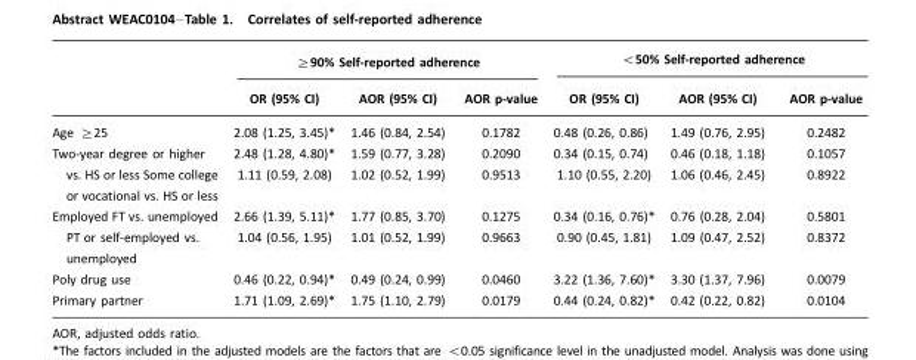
<table><thead><tr><td rowspan="2"></td><td colspan="3">≥90% Self-reported adherence</td><td colspan="3">&lt;50% Self-reported adherence</td></tr><tr><td>OR (95% CI)</td><td>AOR (95% CI)</td><td>AOR p-value</td><td>OR (95% CI)</td><td>AOR (95% CI)</td><td>AOR p-value</td></tr></thead><tbody><tr><td>Age ≥25</td><td>2.08 (1.25, 3.45)*</td><td>1.46 (0.84, 2.54)</td><td>0.1782</td><td>0.48 (0.26, 0.86)</td><td>1.49 (0.76, 2.95)</td><td>0.2482</td></tr><tr><td>Two-year degree or higher vs. HS or less Some college or vocational vs. HS or less</td><td>2.48 (1.28, 4.80)* 1.11 (0.59, 2.08)</td><td>1.59 (0.77, 3.28) 1.02 (0.52, 1.99)</td><td>0.2090 0.9513</td><td>0.34 (0.15, 0.74) 1.10 (0.55, 2.20)</td><td>0.46 (0.18, 1.18) 1.06 (0.46, 2.45)</td><td>0.1057 0.8922</td></tr><tr><td>Employed FT vs. unemployed PT or self-employed vs. unemployed</td><td>2.66 (1.39, 5.11)* 1.04 (0.56, 1.95)</td><td>1.77 (0.85, 3.70) 1.01 (0.52, 1.99)</td><td>0.1275 0.9663</td><td>0.34 (0.16, 0.76)* 0.90 (0.45, 1.81)</td><td>0.76 (0.28, 2.04) 1.09 (0.47, 2.52)</td><td>0.5801 0.8372</td></tr><tr><td>Poly drug use</td><td>0.46 (0.22, 0.94)*</td><td>0.49 (0.24, 0.99)</td><td>0.0460</td><td>3.22 (1.36, 7.60)*</td><td>3.30 (1.37, 7.96)</td><td>0.0079</td></tr><tr><td>Primary partner</td><td>1.71 (1.09, 2.69)*</td><td>1.75 (1.10, 2.79)</td><td>0.0179</td><td>0.44 (0.24, 0.82)*</td><td>0.42 (0.22, 0.82)</td><td>0.0104</td></tr></tbody></table>